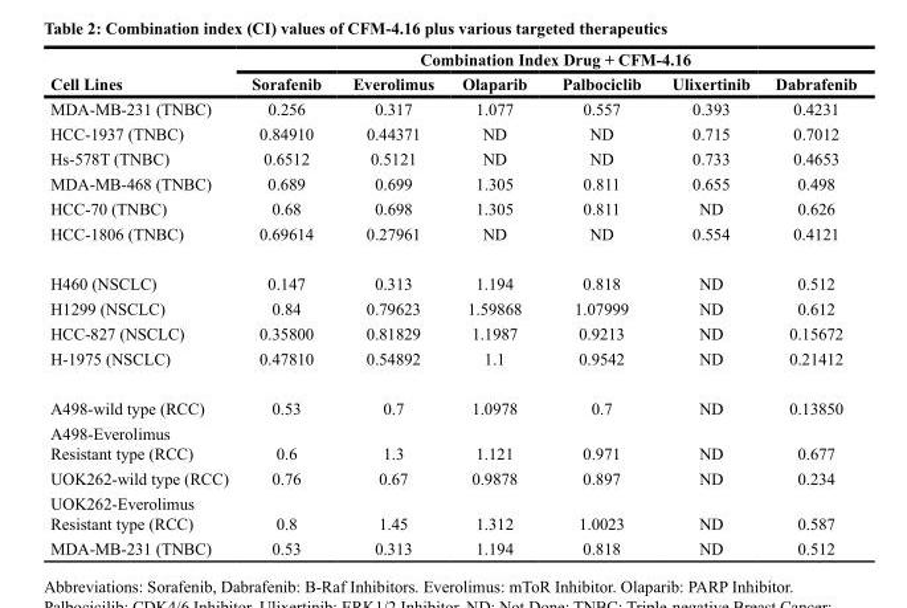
<table><thead><tr><td rowspan="2">cell Lines</td><td colspan="6">combination Index drug + cFM-4.16</td></tr><tr><td>sorafenib</td><td>Everolimus</td><td>olaparib</td><td>Palbociclib</td><td>ulixertinib</td><td>dabrafenib</td></tr></thead><tbody><tr><td>MDA-MB-231 (TNBC)</td><td>0.256</td><td>0.317</td><td>1.077</td><td>0.557</td><td>0.393</td><td>0.4231</td></tr><tr><td>HCC-1937 (TNBC)</td><td>0.84910</td><td>0.44371</td><td>ND</td><td>ND</td><td>0.715</td><td>0.7012</td></tr><tr><td>Hs-578T (TNBC)</td><td>0.6512</td><td>0.5121</td><td>ND</td><td>ND</td><td>0.733</td><td>0.4653</td></tr><tr><td>MDA-MB-468 (TNBC)</td><td>0.689</td><td>0.699</td><td>1.305</td><td>0.811</td><td>0.655</td><td>0.498</td></tr><tr><td>HCC-70 (TNBC)</td><td>0.68</td><td>0.698</td><td>1.305</td><td>0.811</td><td>ND</td><td>0.626</td></tr><tr><td>HCC-1806 (TNBC)</td><td>0.69614</td><td>0.27961</td><td>ND</td><td>ND</td><td>0.554</td><td>0.4121</td></tr><tr><td>H460 (NSCLC)</td><td>0.147</td><td>0.313</td><td>1.194</td><td>0.818</td><td>ND</td><td>0.512</td></tr><tr><td>H1299 (NSCLC)</td><td>0.84</td><td>0.79623</td><td>1.59868</td><td>1.07999</td><td>ND</td><td>0.612</td></tr><tr><td>HCC-827 (NSCLC)</td><td>0.35800</td><td>0.81829</td><td>1.1987</td><td>0.9213</td><td>ND</td><td>0.15672</td></tr><tr><td>H-1975 (NSCLC)</td><td>0.47810</td><td>0.54892</td><td>1.1</td><td>0.9542</td><td>ND</td><td>0.21412</td></tr><tr><td>A498-wild type (RCC)</td><td>0.53</td><td>0.7</td><td>1.0978</td><td>0.7</td><td>ND</td><td>0.13850</td></tr><tr><td>A498-Everolimus Resistant type (RCC)</td><td>0.6</td><td>1.3</td><td>1.121</td><td>0.971</td><td>ND</td><td>0.677</td></tr><tr><td>UOK262-wild type (RCC)</td><td>0.76</td><td>0.67</td><td>0.9878</td><td>0.897</td><td>ND</td><td>0.234</td></tr><tr><td>UOK262-Everolimus Resistant type (RCC)</td><td>0.8</td><td>1.45</td><td>1.312</td><td>1.0023</td><td>ND</td><td>0.587</td></tr><tr><td>MDA-MB-231 (TNBC)</td><td>0.53</td><td>0.313</td><td>1.194</td><td>0.818</td><td>ND</td><td>0.512</td></tr></tbody></table>